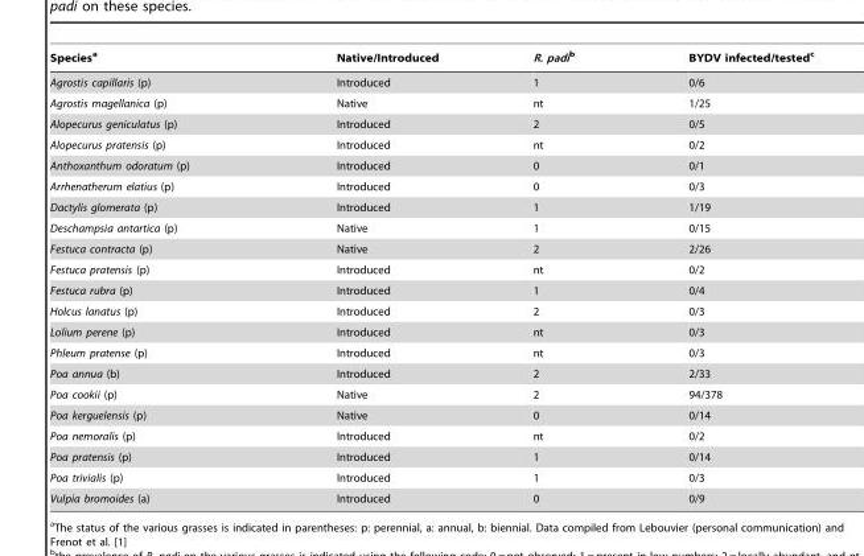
<table><thead><tr><td>Species<sup>a</sup></td><td>Native/Introduced</td><td>R. padib</td><td>BYDV infected/tested<sup>c</sup></td></tr></thead><tbody><tr><td>Agrostis capillaris (p)</td><td>Introduced</td><td>1</td><td>0/6</td></tr><tr><td>Agrostis magellanica (p)</td><td>Native</td><td>nt</td><td>1/25</td></tr><tr><td>Alopecurus geniculatus (p)</td><td>Introduced</td><td>2</td><td>0/5</td></tr><tr><td>Alopecurus pratensis (p)</td><td>Introduced</td><td>nt</td><td>0/2</td></tr><tr><td>Anthoxanthum odoratum (p)</td><td>Introduced</td><td>0</td><td>0/1</td></tr><tr><td>Arrhenatherum elatius (p)</td><td>Introduced</td><td>0</td><td>0/3</td></tr><tr><td>Dactylis glomerata (p)</td><td>Introduced</td><td>1</td><td>1/19</td></tr><tr><td>Deschampsia antartica (p)</td><td>Native</td><td>1</td><td>0/15</td></tr><tr><td>Festuca contracta (p)</td><td>Native</td><td>2</td><td>2/26</td></tr><tr><td>Festuca pratensis (p)</td><td>Introduced</td><td>nt</td><td>0/2</td></tr><tr><td>Festuca rubra (p)</td><td>Introduced</td><td>1</td><td>0/4</td></tr><tr><td>Holcus lanatus (p)</td><td>Introduced</td><td>2</td><td>0/3</td></tr><tr><td>Lolium perene (p)</td><td>Introduced</td><td>nt</td><td>0/3</td></tr><tr><td>Phleum pratense (p)</td><td>Introduced</td><td>nt</td><td>0/3</td></tr><tr><td>Poa annua (b)</td><td>Introduced</td><td>2</td><td>2/33</td></tr><tr><td>Poa cookii (p)</td><td>Native</td><td>2</td><td>94/378</td></tr><tr><td>Poa kerguelensis (p)</td><td>Native</td><td>0</td><td>0/14</td></tr><tr><td>Poa nemoralis (p)</td><td>Introduced</td><td>nt</td><td>0/2</td></tr><tr><td>Poa pratensis (p)</td><td>Introduced</td><td>1</td><td>0/14</td></tr><tr><td>Poa trivialis (p)</td><td>Introduced</td><td>1</td><td>0/3</td></tr><tr><td>Vulpia bromoides (a)</td><td>Introduced</td><td>0</td><td>0/9</td></tr></tbody></table>